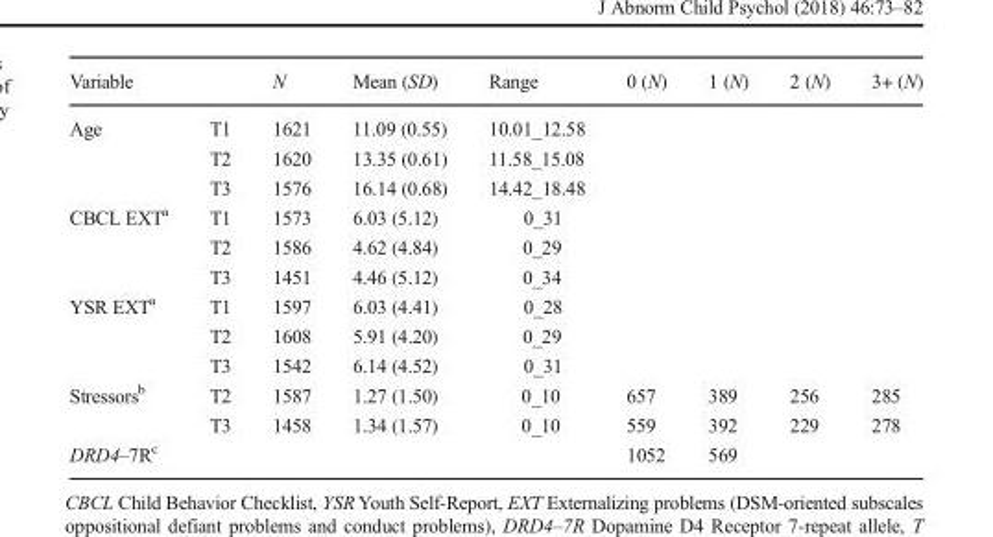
<table><thead><tr><td>Variable</td><td></td><td>N</td><td>Mean (SD)</td><td>Range</td><td>0 (N)</td><td>1 (N)</td><td>2 (N)</td><td>3+ (N)</td></tr></thead><tbody><tr><td rowspan="3">Age</td><td>T1</td><td>1621</td><td>11.09 (0.55)</td><td>10.01_12.58</td><td></td><td></td><td></td><td></td></tr><tr><td>T2</td><td>1620</td><td>13.35 (0.61)</td><td>11.58_15.08</td><td></td><td></td><td></td><td></td></tr><tr><td>T3</td><td>1576</td><td>16.14 (0.68)</td><td>14.42_18.48</td><td></td><td></td><td></td><td></td></tr><tr><td rowspan="3">CBCL EXT<sup>a</sup></td><td>T1</td><td>1573</td><td>6.03 (5.12)</td><td>0_31</td><td></td><td></td><td></td><td></td></tr><tr><td>T2</td><td>1586</td><td>4.62 (4.84)</td><td>0_29</td><td></td><td></td><td></td><td></td></tr><tr><td>T3</td><td>1451</td><td>4.46 (5.12)</td><td>0_34</td><td></td><td></td><td></td><td></td></tr><tr><td rowspan="3">YSR EXT<sup>a</sup></td><td>T1</td><td>1597</td><td>6.03 (4.41)</td><td>0_28</td><td></td><td></td><td></td><td></td></tr><tr><td>T2</td><td>1608</td><td>5.91 (4.20)</td><td>0_29</td><td></td><td></td><td></td><td></td></tr><tr><td>T3</td><td>1542</td><td>6.14 (4.52)</td><td>0_31</td><td></td><td></td><td></td><td></td></tr><tr><td rowspan="2">Stressors<sup>b</sup></td><td>T2</td><td>1587</td><td>1.27 (1.50)</td><td>0_10</td><td>657</td><td>389</td><td>256</td><td>285</td></tr><tr><td>T3</td><td>1458</td><td>1.34 (1.57)</td><td>0_10</td><td>559</td><td>392</td><td>229</td><td>278</td></tr><tr><td>DRD4–7R<sup>c</sup></td><td></td><td></td><td></td><td></td><td>1052</td><td>569</td><td></td><td></td></tr></tbody></table>